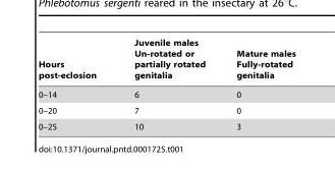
<table><thead><tr><td>Hours post-eclosion</td><td>Juvenile males Un-rotated or partially rotated genitalia</td><td>Mature males Fully-rotated genitalia</td></tr></thead><tbody><tr><td>0–14</td><td>6</td><td>0</td></tr><tr><td>0–20</td><td>7</td><td>0</td></tr><tr><td>0–25</td><td>10</td><td>3</td></tr></tbody></table>